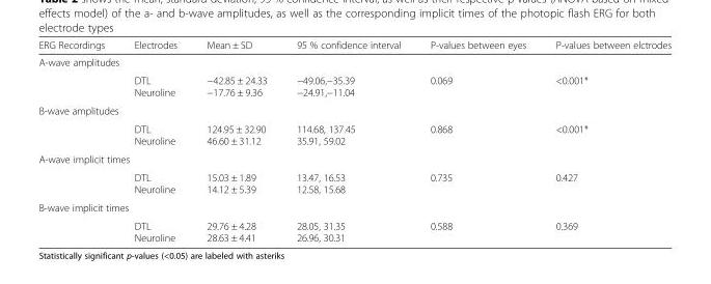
<table><thead><tr><td>ERG Recordings</td><td>Electrodes</td><td>Mean ± SD</td><td>95 % confidence interval</td><td>P-values between eyes</td><td>P-values between elctrodes</td></tr></thead><tbody><tr><td colspan="6">A-wave amplitudes</td></tr><tr><td></td><td>DTL Neuroline</td><td>−42.85 ± 24.33 −17.76 ± 9.36</td><td>−49.06,−35.39 −24.91,−11.04</td><td>0.069</td><td>&lt;0.001*</td></tr><tr><td colspan="6">B-wave amplitudes</td></tr><tr><td></td><td>DTL Neuroline</td><td>124.95 ± 32.90 46.60 ± 31.12</td><td>114.68, 137.45 35.91, 59.02</td><td>0.868</td><td>&lt;0.001*</td></tr><tr><td colspan="6">A-wave implicit times</td></tr><tr><td></td><td>DTL Neuroline</td><td>15.03 ± 1.89 14.12 ± 5.39</td><td>13.47, 16.53 12.58, 15.68</td><td>0.735</td><td>0.427</td></tr><tr><td colspan="6">B-wave implicit times</td></tr><tr><td></td><td>DTL Neuroline</td><td>29.76 ± 4.28 28.63 ± 4.41</td><td>28.05, 31.35 26.96, 30.31</td><td>0.588</td><td>0.369</td></tr></tbody></table>